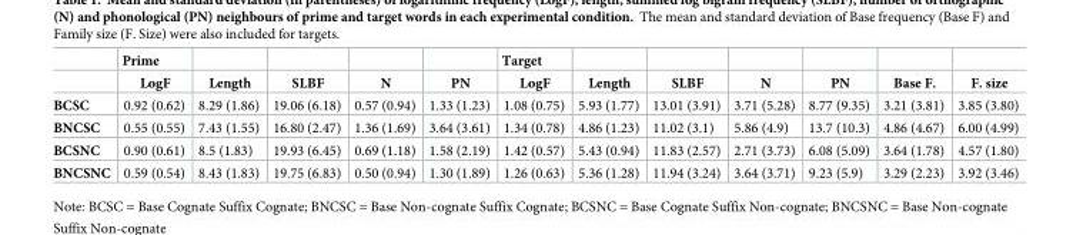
<table><thead><tr><td></td><td>Prime</td><td></td><td></td><td></td><td></td><td>Target</td><td></td><td></td><td></td><td></td><td></td><td></td></tr></thead><tbody><tr><td></td><td>LogF</td><td>Length</td><td>SLBF</td><td>N</td><td>PN</td><td>LogF</td><td>Length</td><td>SLBF</td><td>N</td><td>PN</td><td>Base F.</td><td>F. size</td></tr><tr><td>BCSC</td><td>0.92 (0.62)</td><td>8.29 (1.86)</td><td>19.06 (6.18)</td><td>0.57 (0.94)</td><td>1.33 (1.23)</td><td>1.08 (0.75)</td><td>5.93 (1.77)</td><td>13.01 (3.91)</td><td>3.71 (5.28)</td><td>8.77 (9.35)</td><td>3.21 (3.81)</td><td>3.85 (3.80)</td></tr><tr><td>BNCSC</td><td>0.55 (0.55)</td><td>7.43 (1.55)</td><td>16.80 (2.47)</td><td>1.36 (1.69)</td><td>3.64 (3.61)</td><td>1.34 (0.78)</td><td>4.86 (1.23)</td><td>11.02 (3.1)</td><td>5.86 (4.9)</td><td>13.7 (10.3)</td><td>4.86 (4.67)</td><td>6.00 (4.99)</td></tr><tr><td>BCSNC</td><td>0.90 (0.61)</td><td>8.5 (1.83)</td><td>19.93 (6.45)</td><td>0.69 (1.18)</td><td>1.58 (2.19)</td><td>1.42 (0.57)</td><td>5.43 (0.94)</td><td>11.83 (2.57)</td><td>2.71 (3.73)</td><td>6.08 (5.09)</td><td>3.64 (1.78)</td><td>4.57 (1.80)</td></tr><tr><td>BNCSNC</td><td>0.59 (0.54)</td><td>8.43 (1.83)</td><td>19.75 (6.83)</td><td>0.50 (0.94)</td><td>1.30 (1.89)</td><td>1.26 (0.63)</td><td>5.36 (1.28)</td><td>11.94 (3.24)</td><td>3.64 (3.71)</td><td>9.23 (5.9)</td><td>3.29 (2.23)</td><td>3.92 (3.46)</td></tr></tbody></table>